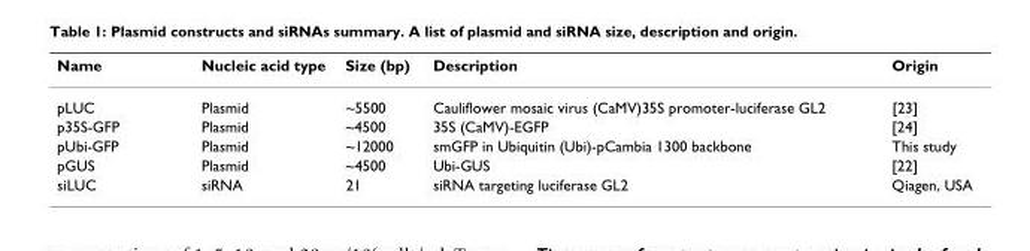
<table><thead><tr><td>Name</td><td>Nucleic acid type</td><td>Size (bp)</td><td>Description</td><td>Origin</td></tr></thead><tbody><tr><td>pLUC</td><td>Plasmid</td><td>~5500</td><td>Cauliflower mosaic virus (CaMV)35S promoter-luciferase GL2</td><td>[23]</td></tr><tr><td>p35S-GFP</td><td>Plasmid</td><td>~4500</td><td>35S (CaMV)-EGFP</td><td>[24]</td></tr><tr><td>pUbi-GFP</td><td>Plasmid</td><td>~12000</td><td>smGFP in Ubiquitin (Ubi)-pCambia 1300 backbone</td><td>This study</td></tr><tr><td>pGUS</td><td>Plasmid</td><td>~4500</td><td>Ubi-GUS</td><td>[22]</td></tr><tr><td>siLUC</td><td>siRNA</td><td>21</td><td>siRNA targeting luciferase GL2</td><td>Qiagen, USA</td></tr></tbody></table>